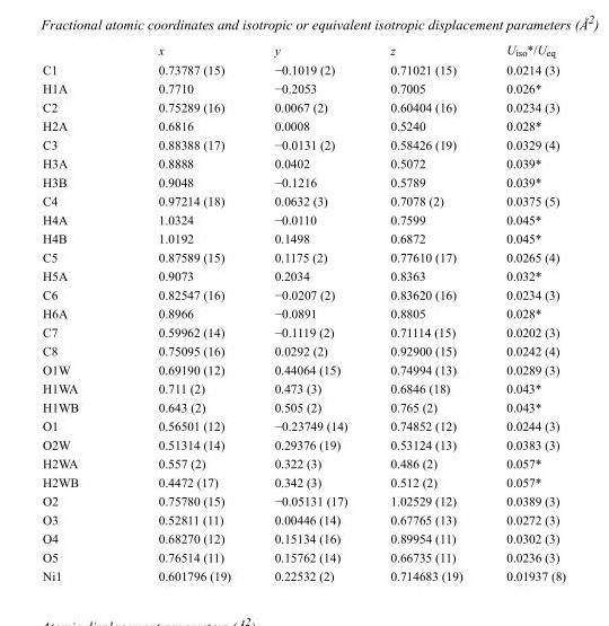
<table><thead><tr><td></td><td>x</td><td>y</td><td>z</td><td>U<sub>iso</sub>*/U<sub>eq</sub></td></tr></thead><tbody><tr><td>C1</td><td>0.73787 (15)</td><td>−0.1019 (2)</td><td>0.71021 (15)</td><td>0.0214 (3)</td></tr><tr><td>H1A</td><td>0.7710</td><td>−0.2053</td><td>0.7005</td><td>0.026*</td></tr><tr><td>C2</td><td>0.75289 (16)</td><td>0.0067 (2)</td><td>0.60404 (16)</td><td>0.0234 (3)</td></tr><tr><td>H2A</td><td>0.6816</td><td>0.0008</td><td>0.5240</td><td>0.028*</td></tr><tr><td>C3</td><td>0.88388 (17)</td><td>−0.0131 (2)</td><td>0.58426 (19)</td><td>0.0329 (4)</td></tr><tr><td>H3A</td><td>0.8888</td><td>0.0402</td><td>0.5072</td><td>0.039*</td></tr><tr><td>H3B</td><td>0.9048</td><td>−0.1216</td><td>0.5789</td><td>0.039*</td></tr><tr><td>C4</td><td>0.97214 (18)</td><td>0.0632 (3)</td><td>0.7078 (2)</td><td>0.0375 (5)</td></tr><tr><td>H4A</td><td>1.0324</td><td>−0.0110</td><td>0.7599</td><td>0.045*</td></tr><tr><td>H4B</td><td>1.0192</td><td>0.1498</td><td>0.6872</td><td>0.045*</td></tr><tr><td>C5</td><td>0.87589 (15)</td><td>0.1175 (2)</td><td>0.77610 (17)</td><td>0.0265 (4)</td></tr><tr><td>H5A</td><td>0.9073</td><td>0.2034</td><td>0.8363</td><td>0.032*</td></tr><tr><td>C6</td><td>0.82547 (16)</td><td>−0.0207 (2)</td><td>0.83620 (16)</td><td>0.0234 (3)</td></tr><tr><td>H6A</td><td>0.8966</td><td>−0.0891</td><td>0.8805</td><td>0.028*</td></tr><tr><td>C7</td><td>0.59962 (14)</td><td>−0.1119 (2)</td><td>0.71114 (15)</td><td>0.0202 (3)</td></tr><tr><td>C8</td><td>0.75095 (16)</td><td>0.0292 (2)</td><td>0.92900 (15)</td><td>0.0242 (4)</td></tr><tr><td>O1W</td><td>0.69190 (12)</td><td>0.44064 (15)</td><td>0.74994 (13)</td><td>0.0289 (3)</td></tr><tr><td>H1WA</td><td>0.711 (2)</td><td>0.473 (3)</td><td>0.6846 (18)</td><td>0.043*</td></tr><tr><td>H1WB</td><td>0.643 (2)</td><td>0.505 (2)</td><td>0.765 (2)</td><td>0.043*</td></tr><tr><td>O1</td><td>0.56501 (12)</td><td>−0.23749 (14)</td><td>0.74852 (12)</td><td>0.0244 (3)</td></tr><tr><td>O2W</td><td>0.51314 (14)</td><td>0.29376 (19)</td><td>0.53124 (13)</td><td>0.0383 (3)</td></tr><tr><td>H2WA</td><td>0.557 (2)</td><td>0.322 (3)</td><td>0.486 (2)</td><td>0.057*</td></tr><tr><td>H2WB</td><td>0.4472 (17)</td><td>0.342 (3)</td><td>0.512 (2)</td><td>0.057*</td></tr><tr><td>O2</td><td>0.75780 (15)</td><td>−0.05131 (17)</td><td>1.02529 (12)</td><td>0.0389 (3)</td></tr><tr><td>O3</td><td>0.52811 (11)</td><td>0.00446 (14)</td><td>0.67765 (13)</td><td>0.0272 (3)</td></tr><tr><td>O4</td><td>0.68270 (12)</td><td>0.15134 (16)</td><td>0.89954 (11)</td><td>0.0302 (3)</td></tr><tr><td>O5</td><td>0.76514 (11)</td><td>0.15762 (14)</td><td>0.66735 (11)</td><td>0.0236 (3)</td></tr><tr><td>Ni1</td><td>0.601796 (19)</td><td>0.22532 (2)</td><td>0.714683 (19)</td><td>0.01937 (8)</td></tr></tbody></table>